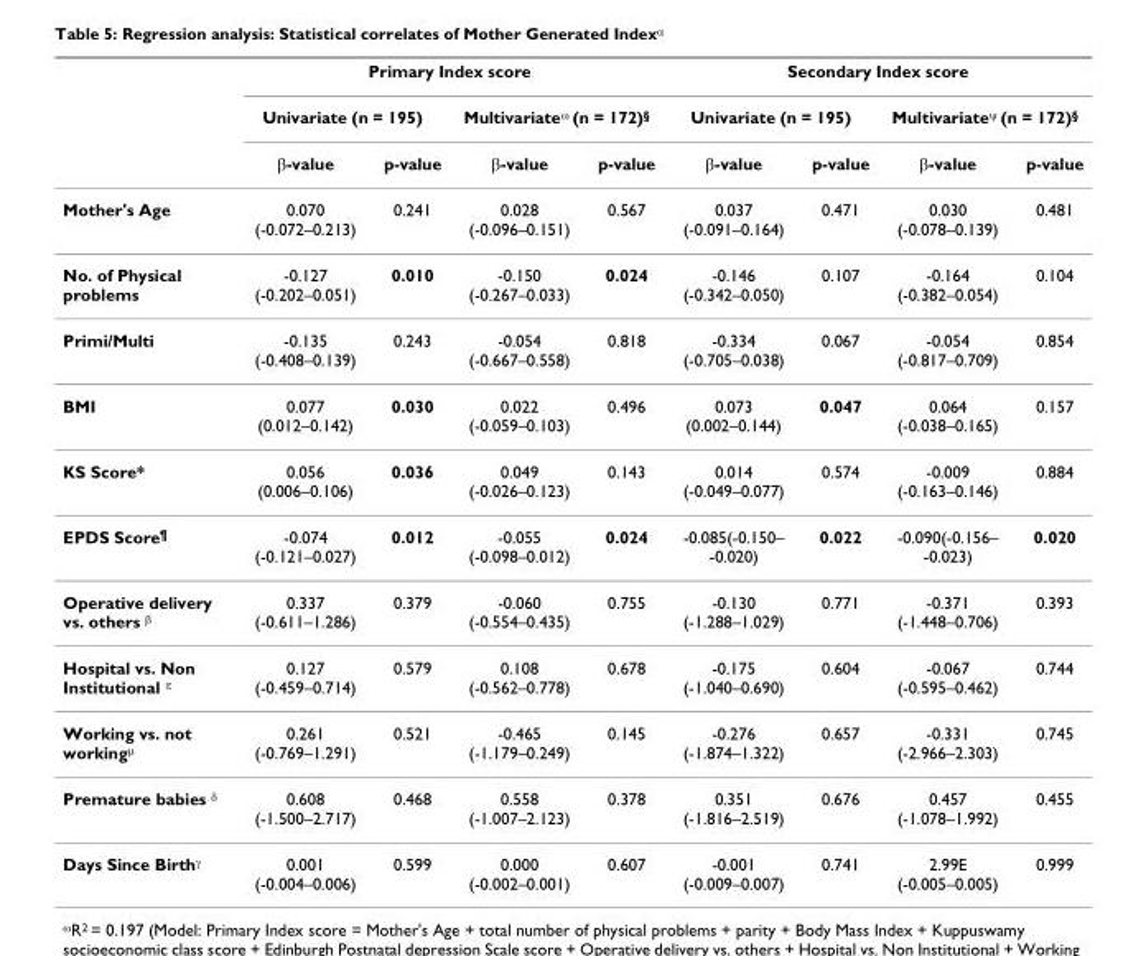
<table><thead><tr><td rowspan="3"></td><td colspan="4">Primary Index score</td><td colspan="4">Secondary Index score</td></tr><tr><td colspan="2">Univariate (n = 195)</td><td colspan="2">Multivariate<sup>ω</sup> (n = 172)<sup>§</sup></td><td colspan="2">Univariate (n = 195)</td><td colspan="2">Multivariate<sup>ψ</sup> (n = 172)<sup>§</sup></td></tr><tr><td>β-value</td><td>p-value</td><td>β-value</td><td>p-value</td><td>β-value</td><td>p-value</td><td>β-value</td><td>p-value</td></tr></thead><tbody><tr><td>Mother&#x27;s Age</td><td>0.070 (-0.072–0.213)</td><td>0.241</td><td>0.028 (-0.096–0.151)</td><td>0.567</td><td>0.037 (-0.091–0.164)</td><td>0.471</td><td>0.030 (-0.078–0.139)</td><td>0.481</td></tr><tr><td>No. of Physical problems</td><td>-0.127 (-0.202–0.051)</td><td>0.010</td><td>-0.150 (-0.267–0.033)</td><td>0.024</td><td>-0.146 (-0.342–0.050)</td><td>0.107</td><td>-0.164 (-0.382–0.054)</td><td>0.104</td></tr><tr><td>Primi/Multi</td><td>-0.135 (-0.408–0.139)</td><td>0.243</td><td>-0.054 (-0.667–0.558)</td><td>0.818</td><td>-0.334 (-0.705–0.038)</td><td>0.067</td><td>-0.054 (-0.817–0.709)</td><td>0.854</td></tr><tr><td>BMI</td><td>0.077 (0.012–0.142)</td><td>0.030</td><td>0.022 (-0.059–0.103)</td><td>0.496</td><td>0.073 (0.002–0.144)</td><td>0.047</td><td>0.064 (-0.038–0.165)</td><td>0.157</td></tr><tr><td>KS Score*</td><td>0.056 (0.006–0.106)</td><td>0.036</td><td>0.049 (-0.026–0.123)</td><td>0.143</td><td>0.014 (-0.049–0.077)</td><td>0.574</td><td>-0.009 (-0.163–0.146)</td><td>0.884</td></tr><tr><td>EPDS Score<sup>¶</sup></td><td>-0.074 (-0.121–0.027)</td><td>0.012</td><td>-0.055 (-0.098–0.012)</td><td>0.024</td><td>-0.085(-0.150– -0.020)</td><td>0.022</td><td>-0.090(-0.156– -0.023)</td><td>0.020</td></tr><tr><td>Operative delivery vs. others <sup>β</sup></td><td>0.337 (-0.611–1.286)</td><td>0.379</td><td>-0.060 (-0.554–0.435)</td><td>0.755</td><td>-0.130 (-1.288–1.029)</td><td>0.771</td><td>-0.371 (-1.448–0.706)</td><td>0.393</td></tr><tr><td>Hospital vs. Non Institutional <sup>π</sup></td><td>0.127 (-0.459–0.714)</td><td>0.579</td><td>0.108 (-0.562–0.778)</td><td>0.678</td><td>-0.175 (-1.040–0.690)</td><td>0.604</td><td>-0.067 (-0.595–0.462)</td><td>0.744</td></tr><tr><td>Working vs. not working<sup>μ</sup></td><td>0.261 (-0.769–1.291)</td><td>0.521</td><td>-0.465 (-1.179–0.249)</td><td>0.145</td><td>-0.276 (-1.874–1.322)</td><td>0.657</td><td>-0.331 (-2.966–2.303)</td><td>0.745</td></tr><tr><td>Premature babies <sup>δ</sup></td><td>0.608 (-1.500–2.717)</td><td>0.468</td><td>0.558 (-1.007–2.123)</td><td>0.378</td><td>0.351 (-1.816–2.519)</td><td>0.676</td><td>0.457 (-1.078–1.992)</td><td>0.455</td></tr><tr><td>Days Since Birth<sup>γ</sup></td><td>0.001 (-0.004–0.006)</td><td>0.599</td><td>0.000 (-0.002–0.001)</td><td>0.607</td><td>-0.001 (-0.009–0.007)</td><td>0.741</td><td>2.99E (-0.005–0.005)</td><td>0.999</td></tr></tbody></table>